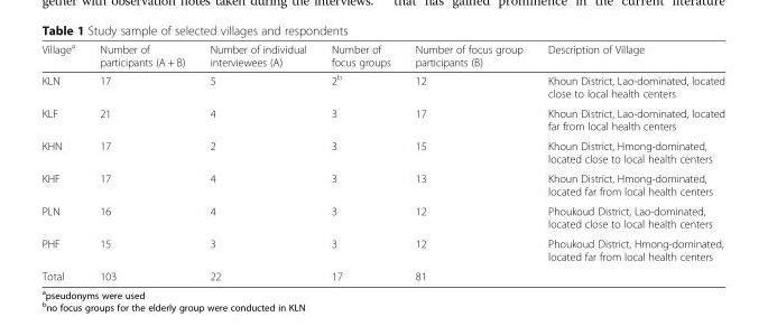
<table><thead><tr><td>Village<sup>a</sup></td><td>Number of participants (A + B)</td><td>Number of individual interviewees (A)</td><td>Number of focus groups</td><td>Number of focus group participants (B)</td><td>Description of Village</td></tr></thead><tbody><tr><td>KLN</td><td>17</td><td>5</td><td>2<sup>b</sup></td><td>12</td><td>Khoun District, Lao-dominated, located close to local health centers</td></tr><tr><td>KLF</td><td>21</td><td>4</td><td>3</td><td>17</td><td>Khoun District, Lao-dominated, located far from local health centers</td></tr><tr><td>KHN</td><td>17</td><td>2</td><td>3</td><td>15</td><td>Khoun District, Hmong-dominated, located close to local health centers</td></tr><tr><td>KHF</td><td>17</td><td>4</td><td>3</td><td>13</td><td>Khoun District, Hmong-dominated, located far from local health centers</td></tr><tr><td>PLN</td><td>16</td><td>4</td><td>3</td><td>12</td><td>Phoukoud District, Lao-dominated, located close to local health centers</td></tr><tr><td>PHF</td><td>15</td><td>3</td><td>3</td><td>12</td><td>Phoukoud District, Hmong-dominated, located far from local health centers</td></tr><tr><td>Total</td><td>103</td><td>22</td><td>17</td><td>81</td><td></td></tr></tbody></table>